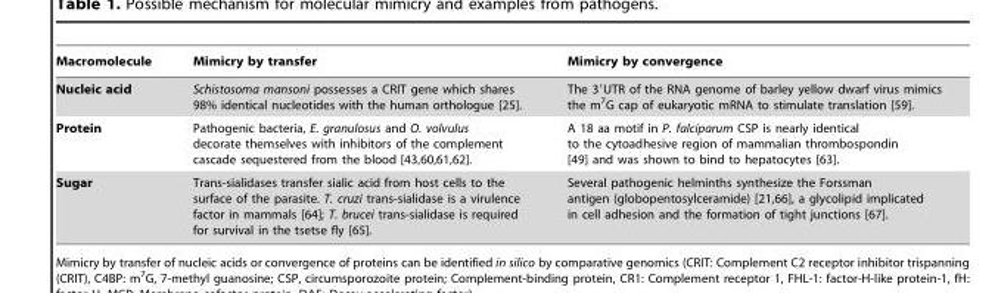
<table><thead><tr><td>Macromolecule</td><td>Mimicry by transfer</td><td>Mimicry by convergence</td></tr></thead><tbody><tr><td>Nucleic acid</td><td>Schistosoma mansoni possesses a CRIT gene which shares 98% identical nucleotides with the human orthologue [25].</td><td>The 3′UTR of the RNA genome of barley yellow dwarf virus mimics the m<sup>7</sup>G cap of eukaryotic mRNA to stimulate translation [59].</td></tr><tr><td>Protein</td><td>Pathogenic bacteria, E. granulosus and O. volvulus decorate themselves with inhibitors of the complement cascade sequestered from the blood [43,60,61,62].</td><td>A 18 aa motif in P. falciparum CSP is nearly identical to the cytoadhesive region of mammalian thrombospondin [49] and was shown to bind to hepatocytes [63].</td></tr><tr><td>Sugar</td><td>Trans-sialidases transfer sialic acid from host cells to the surface of the parasite. T. cruzi trans-sialidase is a virulence factor in mammals [64]; T. brucei trans-sialidase is required for survival in the tsetse fly [65].</td><td>Several pathogenic helminths synthesize the Forssman antigen (globopentosylceramide) [21,66], a glycolipid implicated in cell adhesion and the formation of tight junctions [67].</td></tr></tbody></table>